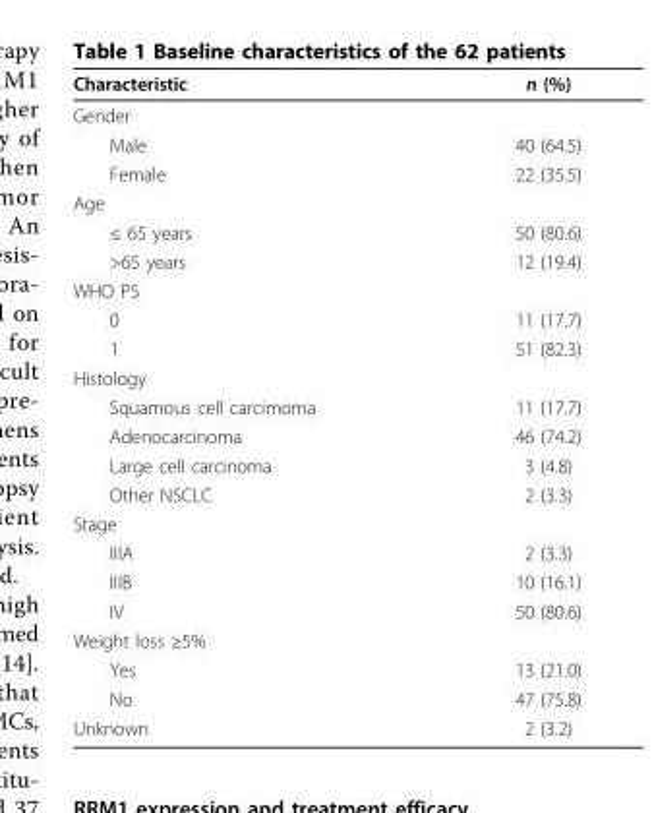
<table><thead><tr><td>Characteristic</td><td>n (%)</td></tr></thead><tbody><tr><td colspan="2">Gender</td></tr><tr><td>Male</td><td>40 (64.5)</td></tr><tr><td>Female</td><td>22 (35.5)</td></tr><tr><td colspan="2">Age</td></tr><tr><td>≤ 65 years</td><td>50 (80.6)</td></tr><tr><td>&gt;65 years</td><td>12 (19.4)</td></tr><tr><td colspan="2">WHO PS</td></tr><tr><td>0</td><td>11 (17.7)</td></tr><tr><td>1</td><td>51 (82.3)</td></tr><tr><td colspan="2">Histology</td></tr><tr><td>Squamous cell carcimoma</td><td>11 (17.7)</td></tr><tr><td>Adenocarcinoma</td><td>46 (74.2)</td></tr><tr><td>Large cell carcinoma</td><td>3 (4.8)</td></tr><tr><td>Other NSCLC</td><td>2 (3.3)</td></tr><tr><td colspan="2">Stage</td></tr><tr><td>IIIA</td><td>2 (3.3)</td></tr><tr><td>IIIB</td><td>10 (16.1)</td></tr><tr><td>IV</td><td>50 (80.6)</td></tr><tr><td colspan="2">Weight loss ≥5%</td></tr><tr><td>Yes</td><td>13 (21.0)</td></tr><tr><td>No</td><td>47 (75.8)</td></tr><tr><td>Unknown</td><td>2 (3.2)</td></tr></tbody></table>